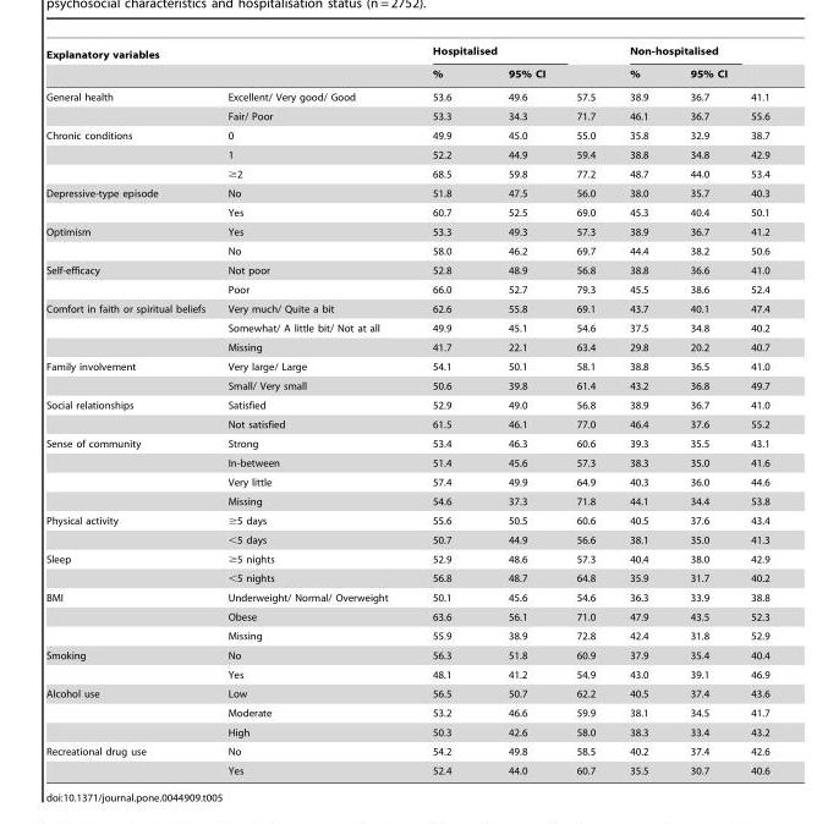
<table><thead><tr><td colspan="2">Explanatory variables</td><td colspan="2">Hospitalised</td><td rowspan="2"></td><td colspan="2">Non-hospitalised</td><td rowspan="2"></td></tr><tr><td></td><td></td><td>%</td><td>95% CI</td><td>%</td><td>95% CI</td></tr></thead><tbody><tr><td rowspan="2">General health</td><td>Excellent/ Very good/ Good</td><td>53.6</td><td>49.6</td><td>57.5</td><td>38.9</td><td>36.7</td><td>41.1</td></tr><tr><td>Fair/ Poor</td><td>53.3</td><td>34.3</td><td>71.7</td><td>46.1</td><td>36.7</td><td>55.6</td></tr><tr><td rowspan="3">Chronic conditions</td><td>0</td><td>49.9</td><td>45.0</td><td>55.0</td><td>35.8</td><td>32.9</td><td>38.7</td></tr><tr><td>1</td><td>52.2</td><td>44.9</td><td>59.4</td><td>38.8</td><td>34.8</td><td>42.9</td></tr><tr><td>≥2</td><td>68.5</td><td>59.8</td><td>77.2</td><td>48.7</td><td>44.0</td><td>53.4</td></tr><tr><td rowspan="2">Depressive-type episode</td><td>No</td><td>51.8</td><td>47.5</td><td>56.0</td><td>38.0</td><td>35.7</td><td>40.3</td></tr><tr><td>Yes</td><td>60.7</td><td>52.5</td><td>69.0</td><td>45.3</td><td>40.4</td><td>50.1</td></tr><tr><td rowspan="2">Optimism</td><td>Yes</td><td>53.3</td><td>49.3</td><td>57.3</td><td>38.9</td><td>36.7</td><td>41.2</td></tr><tr><td>No</td><td>58.0</td><td>46.2</td><td>69.7</td><td>44.4</td><td>38.2</td><td>50.6</td></tr><tr><td rowspan="2">Self-efficacy</td><td>Not poor</td><td>52.8</td><td>48.9</td><td>56.8</td><td>38.8</td><td>36.6</td><td>41.0</td></tr><tr><td>Poor</td><td>66.0</td><td>52.7</td><td>79.3</td><td>45.5</td><td>38.6</td><td>52.4</td></tr><tr><td rowspan="3">Comfort in faith or spiritual beliefs</td><td>Very much/ Quite a bit</td><td>62.6</td><td>55.8</td><td>69.1</td><td>43.7</td><td>40.1</td><td>47.4</td></tr><tr><td>Somewhat/ A little bit/ Not at all</td><td>49.9</td><td>45.1</td><td>54.6</td><td>37.5</td><td>34.8</td><td>40.2</td></tr><tr><td>Missing</td><td>41.7</td><td>22.1</td><td>63.4</td><td>29.8</td><td>20.2</td><td>40.7</td></tr><tr><td rowspan="2">Family involvement</td><td>Very large/ Large</td><td>54.1</td><td>50.1</td><td>58.1</td><td>38.8</td><td>36.5</td><td>41.0</td></tr><tr><td>Small/ Very small</td><td>50.6</td><td>39.8</td><td>61.4</td><td>43.2</td><td>36.8</td><td>49.7</td></tr><tr><td rowspan="2">Social relationships</td><td>Satisfied</td><td>52.9</td><td>49.0</td><td>56.8</td><td>38.9</td><td>36.7</td><td>41.0</td></tr><tr><td>Not satisfied</td><td>61.5</td><td>46.1</td><td>77.0</td><td>46.4</td><td>37.6</td><td>55.2</td></tr><tr><td rowspan="4">Sense of community</td><td>Strong</td><td>53.4</td><td>46.3</td><td>60.6</td><td>39.3</td><td>35.5</td><td>43.1</td></tr><tr><td>In-between</td><td>51.4</td><td>45.6</td><td>57.3</td><td>38.3</td><td>35.0</td><td>41.6</td></tr><tr><td>Very little</td><td>57.4</td><td>49.9</td><td>64.9</td><td>40.3</td><td>36.0</td><td>44.6</td></tr><tr><td>Missing</td><td>54.6</td><td>37.3</td><td>71.8</td><td>44.1</td><td>34.4</td><td>53.8</td></tr><tr><td rowspan="2">Physical activity</td><td>≥5 days</td><td>55.6</td><td>50.5</td><td>60.6</td><td>40.5</td><td>37.6</td><td>43.4</td></tr><tr><td>&lt;5 days</td><td>50.7</td><td>44.9</td><td>56.6</td><td>38.1</td><td>35.0</td><td>41.3</td></tr><tr><td rowspan="2">Sleep</td><td>≥5 nights</td><td>52.9</td><td>48.6</td><td>57.3</td><td>40.4</td><td>38.0</td><td>42.9</td></tr><tr><td>&lt;5 nights</td><td>56.8</td><td>48.7</td><td>64.8</td><td>35.9</td><td>31.7</td><td>40.2</td></tr><tr><td rowspan="3">BMI</td><td>Underweight/ Normal/ Overweight</td><td>50.1</td><td>45.6</td><td>54.6</td><td>36.3</td><td>33.9</td><td>38.8</td></tr><tr><td>Obese</td><td>63.6</td><td>56.1</td><td>71.0</td><td>47.9</td><td>43.5</td><td>52.3</td></tr><tr><td>Missing</td><td>55.9</td><td>38.9</td><td>72.8</td><td>42.4</td><td>31.8</td><td>52.9</td></tr><tr><td rowspan="2">Smoking</td><td>No</td><td>56.3</td><td>51.8</td><td>60.9</td><td>37.9</td><td>35.4</td><td>40.4</td></tr><tr><td>Yes</td><td>48.1</td><td>41.2</td><td>54.9</td><td>43.0</td><td>39.1</td><td>46.9</td></tr><tr><td rowspan="3">Alcohol use</td><td>Low</td><td>56.5</td><td>50.7</td><td>62.2</td><td>40.5</td><td>37.4</td><td>43.6</td></tr><tr><td>Moderate</td><td>53.2</td><td>46.6</td><td>59.9</td><td>38.1</td><td>34.5</td><td>41.7</td></tr><tr><td>High</td><td>50.3</td><td>42.6</td><td>58.0</td><td>38.3</td><td>33.4</td><td>43.2</td></tr><tr><td rowspan="2">Recreational drug use</td><td>No</td><td>54.2</td><td>49.8</td><td>58.5</td><td>40.2</td><td>37.4</td><td>42.6</td></tr><tr><td>Yes</td><td>52.4</td><td>44.0</td><td>60.7</td><td>35.5</td><td>30.7</td><td>40.6</td></tr></tbody></table>